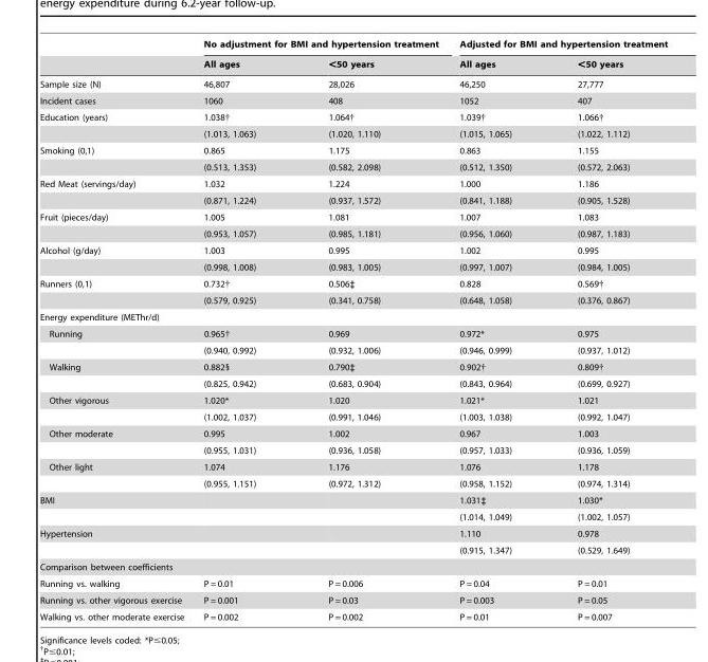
<table><thead><tr><td rowspan="2"></td><td colspan="2">No adjustment for BMI and hypertension treatment</td><td colspan="2">Adjusted for BMI and hypertension treatment</td></tr><tr><td>All ages</td><td>&lt;50 years</td><td>All ages</td><td>&lt;50 years</td></tr></thead><tbody><tr><td>Sample size (N)</td><td>46,807</td><td>28,026</td><td>46,250</td><td>27,777</td></tr><tr><td>Incident cases</td><td>1060</td><td>408</td><td>1052</td><td>407</td></tr><tr><td rowspan="2">Education (years)</td><td>1.038†</td><td>1.064†</td><td>1.039†</td><td>1.066†</td></tr><tr><td>(1.013, 1.063)</td><td>(1.020, 1.110)</td><td>(1.015, 1.065)</td><td>(1.022, 1.112)</td></tr><tr><td rowspan="2">Smoking (0,1)</td><td>0.865</td><td>1.175</td><td>0.863</td><td>1.155</td></tr><tr><td>(0.513, 1.353)</td><td>(0.582, 2.098)</td><td>(0.512, 1.350)</td><td>(0.572, 2.063)</td></tr><tr><td rowspan="2">Red Meat (servings/day)</td><td>1.032</td><td>1.224</td><td>1.000</td><td>1.186</td></tr><tr><td>(0.871, 1.224)</td><td>(0.937, 1.572)</td><td>(0.841, 1.188)</td><td>(0.905, 1.528)</td></tr><tr><td rowspan="2">Fruit (pieces/day)</td><td>1.005</td><td>1.081</td><td>1.007</td><td>1.083</td></tr><tr><td>(0.953, 1.057)</td><td>(0.985, 1.181)</td><td>(0.956, 1.060)</td><td>(0.987, 1.183)</td></tr><tr><td rowspan="2">Alcohol (g/day)</td><td>1.003</td><td>0.995</td><td>1.002</td><td>0.995</td></tr><tr><td>(0.998, 1.008)</td><td>(0.983, 1.005)</td><td>(0.997, 1.007)</td><td>(0.984, 1.005)</td></tr><tr><td rowspan="2">Runners (0,1)</td><td>0.732†</td><td>0.506‡</td><td>0.828</td><td>0.569†</td></tr><tr><td>(0.579, 0.925)</td><td>(0.341, 0.758)</td><td>(0.648, 1.058)</td><td>(0.376, 0.867)</td></tr><tr><td colspan="5">Energy expenditure (METhr/d)</td></tr><tr><td rowspan="2">Running</td><td>0.965†</td><td>0.969</td><td>0.972*</td><td>0.975</td></tr><tr><td>(0.940, 0.992)</td><td>(0.932, 1.006)</td><td>(0.946, 0.999)</td><td>(0.937, 1.012)</td></tr><tr><td rowspan="2">Walking</td><td>0.882§</td><td>0.790‡</td><td>0.902†</td><td>0.809†</td></tr><tr><td>(0.825, 0.942)</td><td>(0.683, 0.904)</td><td>(0.843, 0.964)</td><td>(0.699, 0.927)</td></tr><tr><td rowspan="2">Other vigorous</td><td>1.020*</td><td>1.020</td><td>1.021*</td><td>1.021</td></tr><tr><td>(1.002, 1.037)</td><td>(0.991, 1.046)</td><td>(1.003, 1.038)</td><td>(0.992, 1.047)</td></tr><tr><td rowspan="2">Other moderate</td><td>0.995</td><td>1.002</td><td>0.967</td><td>1.003</td></tr><tr><td>(0.955, 1.031)</td><td>(0.936, 1.058)</td><td>(0.957, 1.033)</td><td>(0.936, 1.059)</td></tr><tr><td rowspan="2">Other light</td><td>1.074</td><td>1.176</td><td>1.076</td><td>1.178</td></tr><tr><td>(0.955, 1.151)</td><td>(0.972, 1.312)</td><td>(0.958, 1.152)</td><td>(0.974, 1.314)</td></tr><tr><td rowspan="2">BMI</td><td></td><td></td><td>1.031‡</td><td>1.030*</td></tr><tr><td></td><td></td><td>(1.014, 1.049)</td><td>(1.002, 1.057)</td></tr><tr><td rowspan="2">Hypertension</td><td></td><td></td><td>1.110</td><td>0.978</td></tr><tr><td></td><td></td><td>(0.915, 1.347)</td><td>(0.529, 1.649)</td></tr><tr><td colspan="5">Comparison between coefficients</td></tr><tr><td>Running vs. walking</td><td>P = 0.01</td><td>P = 0.006</td><td>P = 0.04</td><td>P = 0.01</td></tr><tr><td>Running vs. other vigorous exercise</td><td>P = 0.001</td><td>P = 0.03</td><td>P = 0.003</td><td>P = 0.05</td></tr><tr><td>Walking vs. other moderate exercise</td><td>P = 0.002</td><td>P = 0.002</td><td>P = 0.01</td><td>P = 0.007</td></tr></tbody></table>